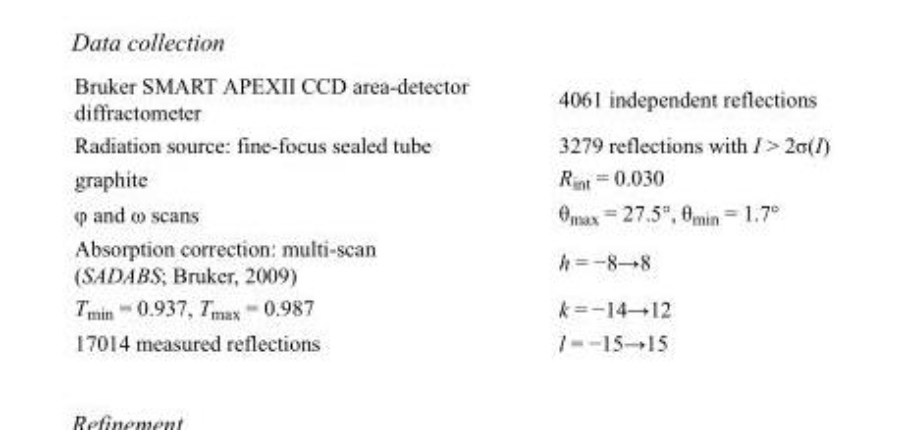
<table><tbody><tr><td>Bruker SMART APEXII CCD area-detector diffractometer</td><td>4061 independent reflections</td></tr><tr><td>Radiation source: fine-focus sealed tube</td><td>3279 reflections with I &gt; 2σ(I)</td></tr><tr><td>graphite</td><td>R<sub>int</sub> = 0.030</td></tr><tr><td>φ and ω scans</td><td>θ<sub>max</sub> = 27.5°, θ<sub>min</sub> = 1.7°</td></tr><tr><td>Absorption correction: multi-scan (SADABS; Bruker, 2009)</td><td>h = −8→8</td></tr><tr><td>T<sub>min</sub> = 0.937, T<sub>max</sub> = 0.987</td><td>k = −14→12</td></tr><tr><td>17014 measured reflections</td><td>l = −15→15</td></tr></tbody></table>